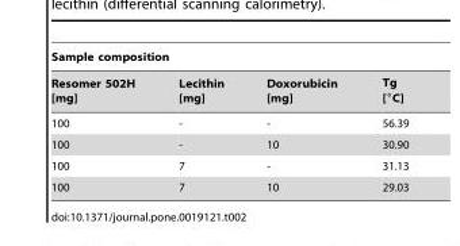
<table><thead><tr><td colspan="4">Sample composition</td></tr><tr><td>Resomer 502H [mg]</td><td>Lecithin [mg]</td><td>Doxorubicin [mg]</td><td>Tg [°C]</td></tr></thead><tbody><tr><td>100</td><td>-</td><td>-</td><td>56.39</td></tr><tr><td>100</td><td>-</td><td>10</td><td>30.90</td></tr><tr><td>100</td><td>7</td><td>-</td><td>31.13</td></tr><tr><td>100</td><td>7</td><td>10</td><td>29.03</td></tr></tbody></table>